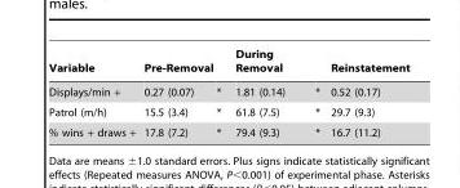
<table><thead><tr><td>Variable</td><td>Pre-Removal</td><td></td><td>During Removal</td><td></td><td>Reinstatement</td></tr></thead><tbody><tr><td>Displays/min +</td><td>0.27 (0.07)</td><td>*</td><td>1.81 (0.14)</td><td>*</td><td>0.52 (0.17)</td></tr><tr><td>Patrol (m/h)</td><td>15.5 (3.4)</td><td>*</td><td>61.8 (7.5)</td><td>*</td><td>29.7 (9.3)</td></tr><tr><td>% wins + draws +</td><td>17.8 (7.2)</td><td>*</td><td>79.4 (9.3)</td><td>*</td><td>16.7 (11.2)</td></tr></tbody></table>